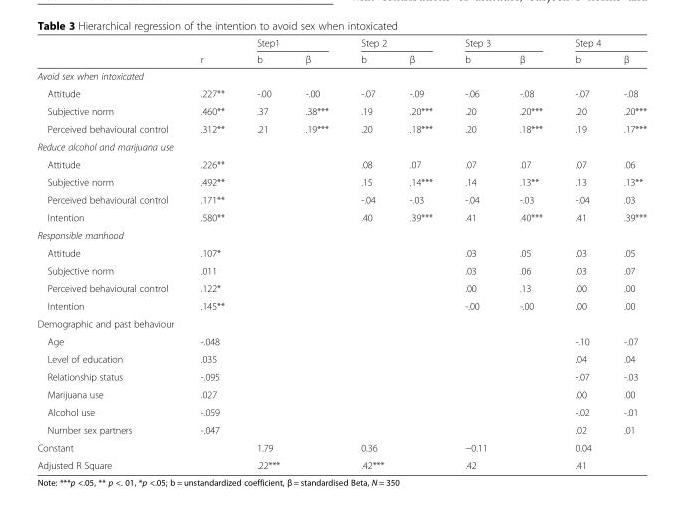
<table><thead><tr><td rowspan="2"></td><td rowspan="2">r</td><td colspan="2">Step1</td><td colspan="2">Step 2</td><td colspan="2">Step 3</td><td colspan="2">Step 4</td></tr><tr><td>b</td><td>β</td><td>b</td><td>β</td><td>b</td><td>β</td><td>b</td><td>β</td></tr></thead><tbody><tr><td colspan="10">Avoid sex when intoxicated</td></tr><tr><td>Attitude</td><td>.227**</td><td>-.00</td><td>-.00</td><td>-.07</td><td>-.09</td><td>-.06</td><td>-.08</td><td>-.07</td><td>-.08</td></tr><tr><td>Subjective norm</td><td>.460**</td><td>.37</td><td>.38***</td><td>.19</td><td>.20***</td><td>.20</td><td>.20***</td><td>.20</td><td>.20***</td></tr><tr><td>Perceived behavioural control</td><td>.312**</td><td>.21</td><td>.19***</td><td>.20</td><td>.18***</td><td>.20</td><td>.18***</td><td>.19</td><td>.17***</td></tr><tr><td colspan="10">Reduce alcohol and marijuana use</td></tr><tr><td>Attitude</td><td>.226**</td><td></td><td></td><td>.08</td><td>.07</td><td>.07</td><td>.07</td><td>.07</td><td>.06</td></tr><tr><td>Subjective norm</td><td>.492**</td><td></td><td></td><td>.15</td><td>.14***</td><td>.14</td><td>.13**</td><td>.13</td><td>.13**</td></tr><tr><td>Perceived behavioural control</td><td>.171**</td><td></td><td></td><td>-.04</td><td>-.03</td><td>-.04</td><td>-.03</td><td>-.04</td><td>.03</td></tr><tr><td>Intention</td><td>.580**</td><td></td><td></td><td>.40</td><td>.39***</td><td>.41</td><td>.40***</td><td>.41</td><td>.39***</td></tr><tr><td colspan="10">Responsible manhood</td></tr><tr><td>Attitude</td><td>.107*</td><td></td><td></td><td></td><td></td><td>.03</td><td>.05</td><td>.03</td><td>.05</td></tr><tr><td>Subjective norm</td><td>.011</td><td></td><td></td><td></td><td></td><td>.03</td><td>.06</td><td>.03</td><td>.07</td></tr><tr><td>Perceived behavioural control</td><td>.122*</td><td></td><td></td><td></td><td></td><td>.00</td><td>.13</td><td>.00</td><td>.00</td></tr><tr><td>Intention</td><td>.145**</td><td></td><td></td><td></td><td></td><td>-.00</td><td>-.00</td><td>.00</td><td>.00</td></tr><tr><td colspan="10">Demographic and past behaviour</td></tr><tr><td>Age</td><td>-.048</td><td></td><td></td><td></td><td></td><td></td><td></td><td>-.10</td><td>-.07</td></tr><tr><td>Level of education</td><td>.035</td><td></td><td></td><td></td><td></td><td></td><td></td><td>.04</td><td>.04</td></tr><tr><td>Relationship status</td><td>-.095</td><td></td><td></td><td></td><td></td><td></td><td></td><td>-.07</td><td>-.03</td></tr><tr><td>Marijuana use</td><td>.027</td><td></td><td></td><td></td><td></td><td></td><td></td><td>.00</td><td>.00</td></tr><tr><td>Alcohol use</td><td>-.059</td><td></td><td></td><td></td><td></td><td></td><td></td><td>-.02</td><td>-.01</td></tr><tr><td>Number sex partners</td><td>-.047</td><td></td><td></td><td></td><td></td><td></td><td></td><td>.02</td><td>.01</td></tr><tr><td>Constant</td><td></td><td>1.79</td><td></td><td>0.36</td><td></td><td>−0.11</td><td></td><td>0.04</td><td></td></tr><tr><td>Adjusted R Square</td><td></td><td colspan="2">.22***</td><td colspan="2">.42***</td><td colspan="2">.42</td><td colspan="2">.41</td></tr></tbody></table>